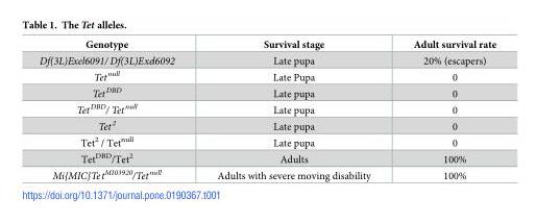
<table><thead><tr><td>Genotype</td><td>Survival stage</td><td>Adult survival rate</td></tr></thead><tbody><tr><td>Df(3L)Exel6091/ Df(3L)Exel6092</td><td>Late pupa</td><td>20% (escapers)</td></tr><tr><td>Tet<sup>null</sup></td><td>Late Pupa</td><td>0</td></tr><tr><td>Tet<sup>DBD</sup></td><td>Late pupa</td><td>0</td></tr><tr><td>Tet<sup>DBD</sup>/ Tet<sup>null</sup></td><td>Late pupa</td><td>0</td></tr><tr><td>Tet<sup>2</sup></td><td>Late pupa</td><td>0</td></tr><tr><td>Tet<sup>2</sup> / Tet<sup>null</sup></td><td>Late pupa</td><td>0</td></tr><tr><td>Tet<sup>DBD</sup>/Tet<sup>2</sup></td><td>Adults</td><td>100%</td></tr><tr><td>Mi{MIC}Tet<sup>MI03920</sup>/Tet<sup>null</sup></td><td>Adults with severe moving disability</td><td>100%</td></tr></tbody></table>